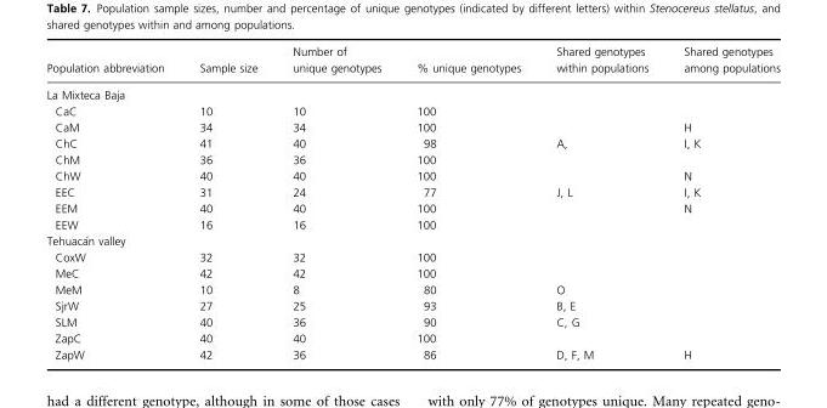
<table><thead><tr><td>Population abbreviation</td><td>Sample size</td><td>Number of unique genotypes</td><td>% unique genotypes</td><td>Shared genotypes within populations</td><td>Shared genotypes among populations</td></tr></thead><tbody><tr><td colspan="6">La Mixteca Baja</td></tr><tr><td>CaC</td><td>10</td><td>10</td><td>100</td><td></td><td></td></tr><tr><td>CaM</td><td>34</td><td>34</td><td>100</td><td></td><td>H</td></tr><tr><td>ChC</td><td>41</td><td>40</td><td>98</td><td>A,</td><td>I, K</td></tr><tr><td>ChM</td><td>36</td><td>36</td><td>100</td><td></td><td></td></tr><tr><td>ChW</td><td>40</td><td>40</td><td>100</td><td></td><td>N</td></tr><tr><td>EEC</td><td>31</td><td>24</td><td>77</td><td>J, L</td><td>I, K</td></tr><tr><td>EEM</td><td>40</td><td>40</td><td>100</td><td></td><td>N</td></tr><tr><td>EEW</td><td>16</td><td>16</td><td>100</td><td></td><td></td></tr><tr><td colspan="6">Tehuac�an valley</td></tr><tr><td>CoxW</td><td>32</td><td>32</td><td>100</td><td></td><td></td></tr><tr><td>MeC</td><td>42</td><td>42</td><td>100</td><td></td><td></td></tr><tr><td>MeM</td><td>10</td><td>8</td><td>80</td><td>O</td><td></td></tr><tr><td>SjrW</td><td>27</td><td>25</td><td>93</td><td>B, E</td><td></td></tr><tr><td>SLM</td><td>40</td><td>36</td><td>90</td><td>C, G</td><td></td></tr><tr><td>ZapC</td><td>40</td><td>40</td><td>100</td><td></td><td></td></tr><tr><td>ZapW</td><td>42</td><td>36</td><td>86</td><td>D, F, M</td><td>H</td></tr></tbody></table>